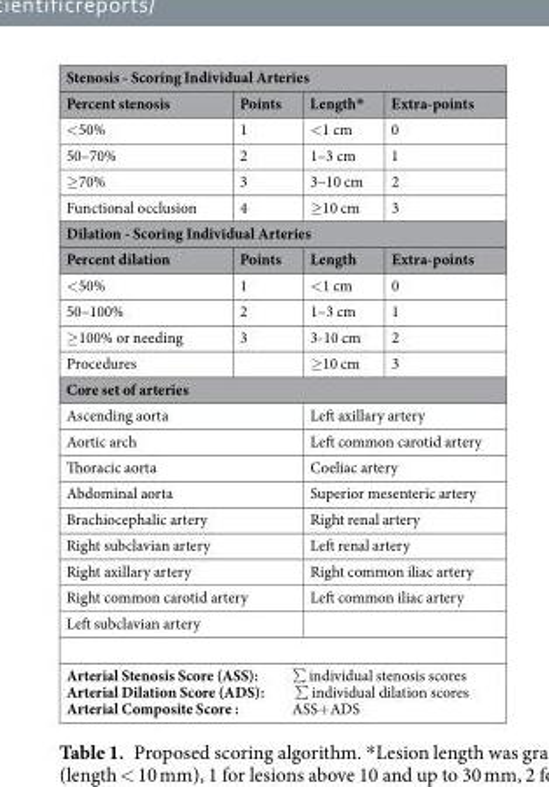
<table><thead><tr><td colspan="4">Stenosis - Scoring Individual Arteries</td></tr><tr><td>Percent stenosis</td><td>Points</td><td>Length*</td><td>Extra-points</td></tr></thead><tbody><tr><td>&lt;50%</td><td>1</td><td>&lt;1 cm</td><td>0</td></tr><tr><td>50–70%</td><td>2</td><td>1–3 cm</td><td>1</td></tr><tr><td>≥70%</td><td>3</td><td>3–10 cm</td><td>2</td></tr><tr><td>Functional occlusion</td><td>4</td><td>≥10 cm</td><td>3</td></tr><tr><td colspan="4">Dilation - Scoring Individual Arteries</td></tr><tr><td>Percent dilation</td><td>Points</td><td>Length</td><td>Extra-points</td></tr><tr><td>&lt;50%</td><td>1</td><td>&lt;1 cm</td><td>0</td></tr><tr><td>50–100%</td><td>2</td><td>1–3 cm</td><td>1</td></tr><tr><td>≥100% or needing</td><td>3</td><td>3-10 cm</td><td>2</td></tr><tr><td>Procedures</td><td></td><td>≥10 cm</td><td>3</td></tr><tr><td colspan="4">Core set of arteries</td></tr><tr><td colspan="2">Ascending aorta</td><td colspan="2">Left axillary artery</td></tr><tr><td colspan="2">Aortic arch</td><td colspan="2">Left common carotid artery</td></tr><tr><td colspan="2">Thoracic aorta</td><td colspan="2">Coeliac artery</td></tr><tr><td colspan="2">Abdominal aorta</td><td colspan="2">Superior mesenteric artery</td></tr><tr><td colspan="2">Brachiocephalic artery</td><td colspan="2">Right renal artery</td></tr><tr><td colspan="2">Right subclavian artery</td><td colspan="2">Left renal artery</td></tr><tr><td colspan="2">Right axillary artery</td><td colspan="2">Right common iliac artery</td></tr><tr><td colspan="2">Right common carotid artery</td><td colspan="2">Left common iliac artery</td></tr><tr><td colspan="4">Left subclavian artery</td></tr><tr><td colspan="4">Arterial Stenosis Score (ASS): ∑ individual stenosis scores Arterial Dilation Score (ADS): ∑ individual dilation scores Arterial Composite Score : ASS+ADS</td></tr></tbody></table>